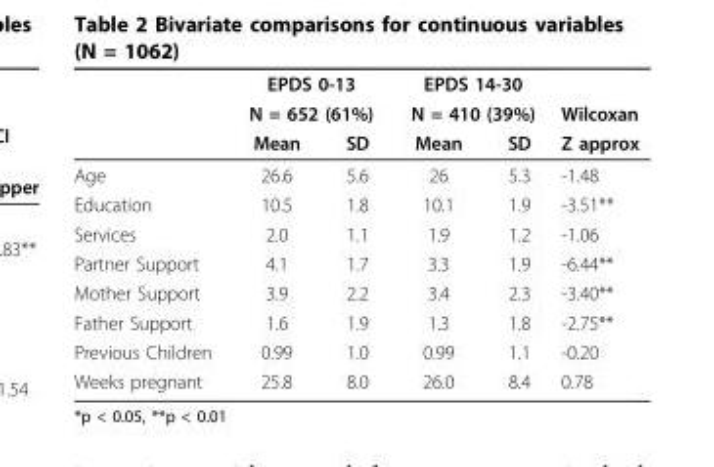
<table><thead><tr><td rowspan="3"></td><td rowspan="2" colspan="2">EPDS 0-13 N = 652 (61%)</td><td rowspan="2" colspan="2">EPDS 14-30 N = 410 (39%)</td><td rowspan="3">Wilcoxan Z approx</td></tr><tr></tr><tr><td>Mean</td><td>SD</td><td>Mean</td><td>SD</td></tr></thead><tbody><tr><td>Age</td><td>26.6</td><td>5.6</td><td>26</td><td>5.3</td><td>-1.48</td></tr><tr><td>Education</td><td>10.5</td><td>1.8</td><td>10.1</td><td>1.9</td><td>-3.51**</td></tr><tr><td>Services</td><td>2.0</td><td>1.1</td><td>1.9</td><td>1.2</td><td>-1.06</td></tr><tr><td>Partner Support</td><td>4.1</td><td>1.7</td><td>3.3</td><td>1.9</td><td>-6.44**</td></tr><tr><td>Mother Support</td><td>3.9</td><td>2.2</td><td>3.4</td><td>2.3</td><td>-3.40**</td></tr><tr><td>Father Support</td><td>1.6</td><td>1.9</td><td>1.3</td><td>1.8</td><td>-2.75**</td></tr><tr><td>Previous Children</td><td>0.99</td><td>1.0</td><td>0.99</td><td>1.1</td><td>-0.20</td></tr><tr><td>Weeks pregnant</td><td>25.8</td><td>8.0</td><td>26.0</td><td>8.4</td><td>0.78</td></tr></tbody></table>